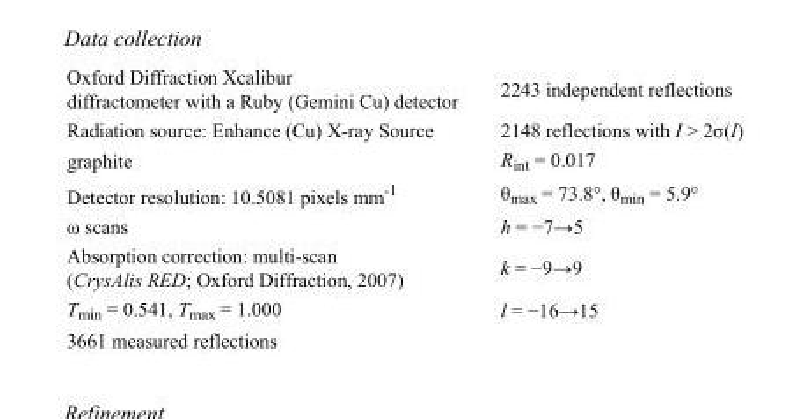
<table><tbody><tr><td>Oxford Diffraction Xcalibur diffractometer with a Ruby (Gemini Cu) detector</td><td>2243 independent reflections</td></tr><tr><td>Radiation source: Enhance (Cu) X-ray Source</td><td>2148 reflections with I &gt; 2σ(I)</td></tr><tr><td>graphite</td><td>R<sub>int</sub> = 0.017</td></tr><tr><td>Detector resolution: 10.5081 pixels mm<sup>-1</sup></td><td>θ<sub>max</sub> = 73.8°, θ<sub>min</sub> = 5.9°</td></tr><tr><td>ω scans</td><td>h = −7→5</td></tr><tr><td>Absorption correction: multi-scan (CrysAlis RED; Oxford Diffraction, 2007)</td><td>k = −9→9</td></tr><tr><td>T<sub>min</sub> = 0.541, T<sub>max</sub> = 1.000</td><td>l = −16→15</td></tr><tr><td>3661 measured reflections</td><td></td></tr></tbody></table>